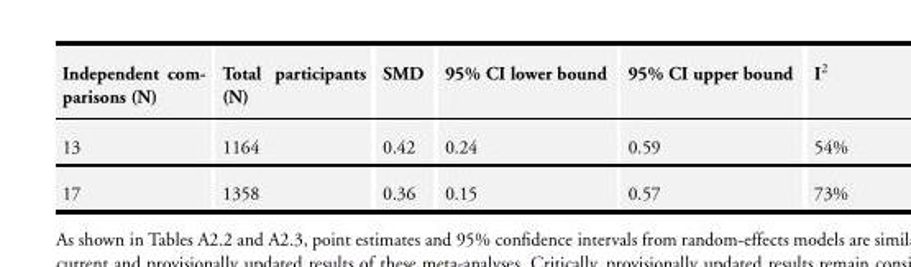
<table><tbody><tr><td>Independent com- parisons (N)</td><td>Total participants (N)</td><td>SMD</td><td>95% CI lower bound</td><td>95% CI upper bound</td><td>I<sup>2</sup></td></tr><tr><td>13</td><td>1164</td><td>0.42</td><td>0.24</td><td>0.59</td><td>54%</td></tr><tr><td>17</td><td>1358</td><td>0.36</td><td>0.15</td><td>0.57</td><td>73%</td></tr></tbody></table>